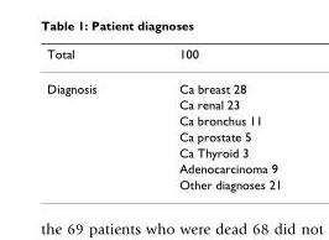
<table><thead><tr><td>Total</td><td>100</td></tr></thead><tbody><tr><td rowspan="7">Diagnosis</td><td>Ca breast 28</td></tr><tr><td>Ca renal 23</td></tr><tr><td>Ca bronchus 11</td></tr><tr><td>Ca prostate 5</td></tr><tr><td>Ca Thyroid 3</td></tr><tr><td>Adenocarcinoma 9</td></tr><tr><td>Other diagnoses 21</td></tr></tbody></table>